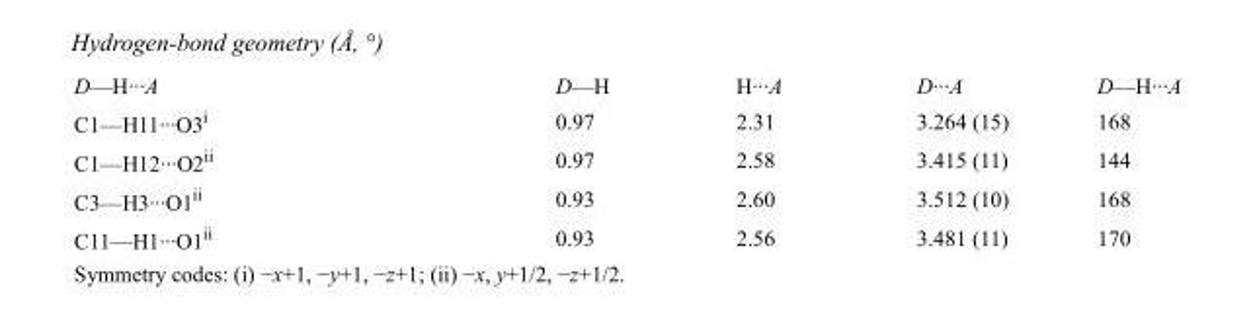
<table><tbody><tr><td>D—H···A</td><td>D—H</td><td>H···A</td><td>D···A</td><td>D—H···A</td></tr><tr><td>C1—H11···O3<sup>i</sup></td><td>0.97</td><td>2.31</td><td>3.264 (15)</td><td>168</td></tr><tr><td>C1—H12···O2<sup>ii</sup></td><td>0.97</td><td>2.58</td><td>3.415 (11)</td><td>144</td></tr><tr><td>C3—H3···O1<sup>ii</sup></td><td>0.93</td><td>2.60</td><td>3.512 (10)</td><td>168</td></tr><tr><td>C11—H1···O1<sup>ii</sup></td><td>0.93</td><td>2.56</td><td>3.481 (11)</td><td>170</td></tr></tbody></table>